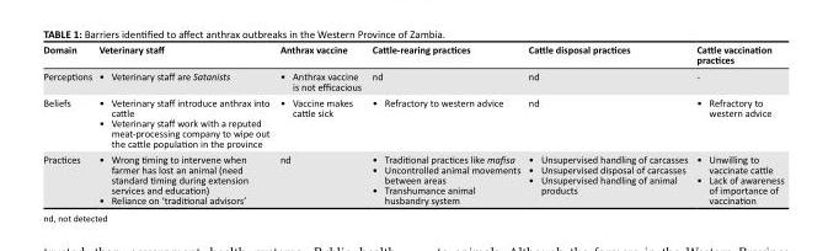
<table><thead><tr><td>Domain</td><td>Veterinary staff</td><td>Anthrax vaccine</td><td>Cattle-rearing practices</td><td>Cattle disposal practices</td><td>Cattle vaccination practices</td></tr></thead><tbody><tr><td>Perceptions</td><td>• Veterinary staff are Satanists</td><td>• Anthrax vaccine is not efficacious</td><td>nd</td><td>nd</td><td>-</td></tr><tr><td>Beliefs</td><td>• Veterinary staff introduce anthrax into cattle • Veterinary staff work with a reputed meat-processing company to wipe out the cattle population in the province</td><td>• Vaccine makes cattle sick</td><td>• Refractory to western advice</td><td>nd</td><td>• Refractory to western advice</td></tr><tr><td>Practices</td><td>• Wrong timing to intervene when farmer has lost an animal (need standard timing during extension services and education) • Reliance on ‘traditional advisors’</td><td>nd</td><td>• Traditional practices like mafisa • Uncontrolled animal movements between areas • Transhumance animal husbandry system</td><td>• Unsupervised handling of carcasses • Unsupervised disposal of carcasses • Unsupervised handling of animal products</td><td>• Unwilling to vaccinate cattle • Lack of awareness of importance of vaccination</td></tr></tbody></table>